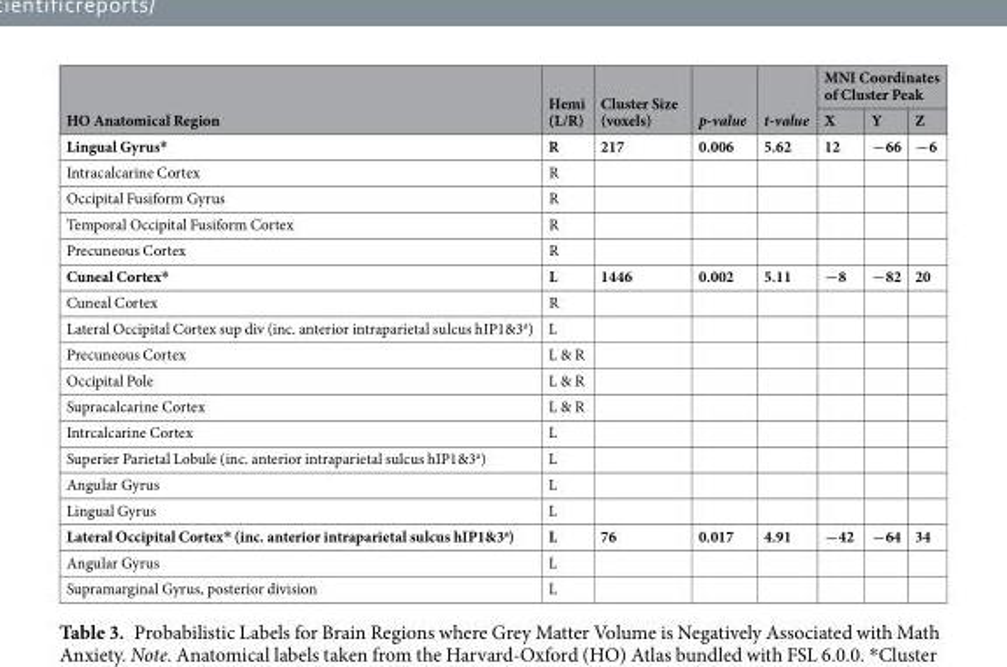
<table><thead><tr><td rowspan="2">HO Anatomical Region</td><td rowspan="2">Hemi (L/R)</td><td rowspan="2">Cluster Size (voxels)</td><td rowspan="2">p-value</td><td rowspan="2">t-value</td><td colspan="3">MNI Coordinates of Cluster Peak</td></tr><tr><td>X</td><td>Y</td><td>Z</td></tr></thead><tbody><tr><td>Lingual Gyrus*</td><td>R</td><td>217</td><td>0.006</td><td>5.62</td><td>12</td><td>−66</td><td>−6</td></tr><tr><td>Intracalcarine Cortex</td><td>R</td><td></td><td></td><td></td><td></td><td></td><td></td></tr><tr><td>Occipital Fusiform Gyrus</td><td>R</td><td></td><td></td><td></td><td></td><td></td><td></td></tr><tr><td>Temporal Occipital Fusiform Cortex</td><td>R</td><td></td><td></td><td></td><td></td><td></td><td></td></tr><tr><td>Precuneous Cortex</td><td>R</td><td></td><td></td><td></td><td></td><td></td><td></td></tr><tr><td>Cuneal Cortex*</td><td>L</td><td>1446</td><td>0.002</td><td>5.11</td><td>−8</td><td>−82</td><td>20</td></tr><tr><td>Cuneal Cortex</td><td>R</td><td></td><td></td><td></td><td></td><td></td><td></td></tr><tr><td>Lateral Occipital Cortex sup div (inc. anterior intraparietal sulcus hIP1&amp;3<sup>a</sup>)</td><td>L</td><td></td><td></td><td></td><td></td><td></td><td></td></tr><tr><td>Precuneous Cortex</td><td>L &amp; R</td><td></td><td></td><td></td><td></td><td></td><td></td></tr><tr><td>Occipital Pole</td><td>L &amp; R</td><td></td><td></td><td></td><td></td><td></td><td></td></tr><tr><td>Supracalcarine Cortex</td><td>L &amp; R</td><td></td><td></td><td></td><td></td><td></td><td></td></tr><tr><td>Intrcalcarine Cortex</td><td>L</td><td></td><td></td><td></td><td></td><td></td><td></td></tr><tr><td>Superier Parietal Lobule (inc. anterior intraparietal sulcus hIP1&amp;3<sup>a</sup>)</td><td>L</td><td></td><td></td><td></td><td></td><td></td><td></td></tr><tr><td>Angular Gyrus</td><td>L</td><td></td><td></td><td></td><td></td><td></td><td></td></tr><tr><td>Lingual Gyrus</td><td>L</td><td></td><td></td><td></td><td></td><td></td><td></td></tr><tr><td>Lateral Occipital Cortex* (inc. anterior intraparietal sulcus hIP1&amp;3<sup>a</sup>)</td><td>L</td><td>76</td><td>0.017</td><td>4.91</td><td>−42</td><td>−64</td><td>34</td></tr><tr><td>Angular Gyrus</td><td>L</td><td></td><td></td><td></td><td></td><td></td><td></td></tr><tr><td>Supramarginal Gyrus, posterior division</td><td>L</td><td></td><td></td><td></td><td></td><td></td><td></td></tr></tbody></table>